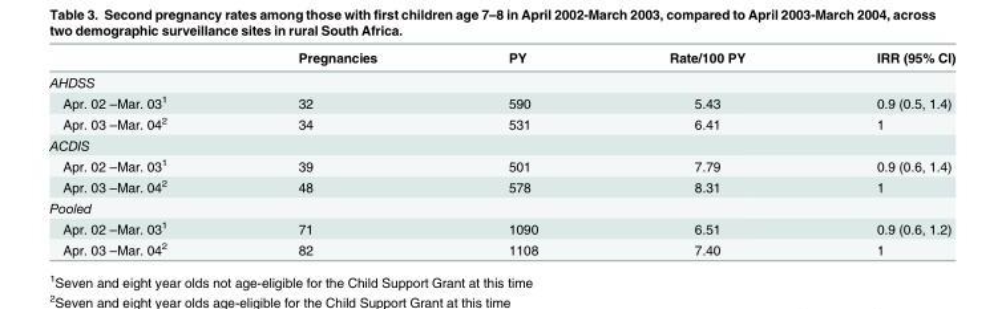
<table><thead><tr><td></td><td>Pregnancies</td><td>PY</td><td>Rate/100 PY</td><td>IRR (95% CI)</td></tr></thead><tbody><tr><td colspan="5">AHDSS</td></tr><tr><td>Apr. 02 –Mar. 03<sup>1</sup></td><td>32</td><td>590</td><td>5.43</td><td>0.9 (0.5, 1.4)</td></tr><tr><td>Apr. 03 –Mar. 04<sup>2</sup></td><td>34</td><td>531</td><td>6.41</td><td>1</td></tr><tr><td colspan="5">ACDIS</td></tr><tr><td>Apr. 02 –Mar. 03<sup>1</sup></td><td>39</td><td>501</td><td>7.79</td><td>0.9 (0.6, 1.4)</td></tr><tr><td>Apr. 03 –Mar. 04<sup>2</sup></td><td>48</td><td>578</td><td>8.31</td><td>1</td></tr><tr><td colspan="5">Pooled</td></tr><tr><td>Apr. 02 –Mar. 03<sup>1</sup></td><td>71</td><td>1090</td><td>6.51</td><td>0.9 (0.6, 1.2)</td></tr><tr><td>Apr. 03 –Mar. 04<sup>2</sup></td><td>82</td><td>1108</td><td>7.40</td><td>1</td></tr></tbody></table>